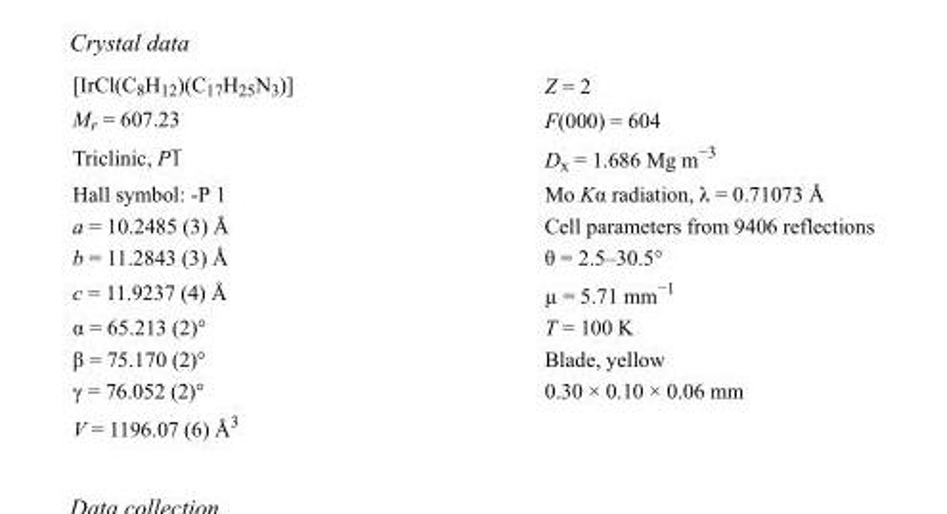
<table><tbody><tr><td>[IrCl(C<sub>8</sub>H<sub>12</sub>)(C<sub>17</sub>H<sub>25</sub>N<sub>3</sub>)]</td><td>Z = 2</td></tr><tr><td>M<sub>r</sub> = 607.23</td><td>F(000) = 604</td></tr><tr><td>Triclinic, P1</td><td>D<sub>x</sub> = 1.686 Mg m<sup>−3</sup></td></tr><tr><td>Hall symbol: -P 1</td><td>Mo Kα radiation, λ = 0.71073 Å</td></tr><tr><td>a = 10.2485 (3) Å</td><td>Cell parameters from 9406 reflections</td></tr><tr><td>b = 11.2843 (3) Å</td><td>θ = 2.5–30.5°</td></tr><tr><td>c = 11.9237 (4) Å</td><td>µ = 5.71 mm<sup>−1</sup></td></tr><tr><td>α = 65.213 (2)°</td><td>T = 100 K</td></tr><tr><td>β = 75.170 (2)°</td><td>Blade, yellow</td></tr><tr><td>γ = 76.052 (2)°</td><td>0.30 × 0.10 × 0.06 mm</td></tr><tr><td>V = 1196.07 (6) Å<sup>3</sup></td><td></td></tr></tbody></table>